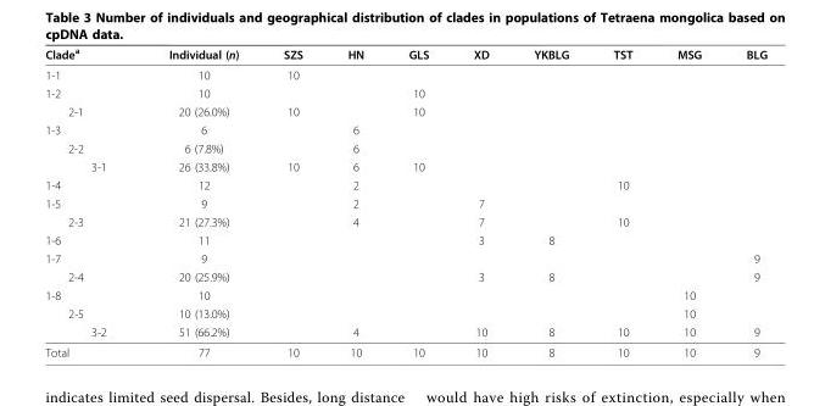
<table><thead><tr><td>Clade<sup>a</sup></td><td>Individual (n)</td><td>SZS</td><td>HN</td><td>GLS</td><td>XD</td><td>YKBLG</td><td>TST</td><td>MSG</td><td>BLG</td></tr></thead><tbody><tr><td>1-1</td><td>10</td><td>10</td><td></td><td></td><td></td><td></td><td></td><td></td><td></td></tr><tr><td>1-2</td><td>10</td><td></td><td></td><td>10</td><td></td><td></td><td></td><td></td><td></td></tr><tr><td>2-1</td><td>20 (26.0%)</td><td>10</td><td></td><td>10</td><td></td><td></td><td></td><td></td><td></td></tr><tr><td>1-3</td><td>6</td><td></td><td>6</td><td></td><td></td><td></td><td></td><td></td><td></td></tr><tr><td>2-2</td><td>6 (7.8%)</td><td></td><td>6</td><td></td><td></td><td></td><td></td><td></td><td></td></tr><tr><td>3-1</td><td>26 (33.8%)</td><td>10</td><td>6</td><td>10</td><td></td><td></td><td></td><td></td><td></td></tr><tr><td>1-4</td><td>12</td><td></td><td>2</td><td></td><td></td><td></td><td>10</td><td></td><td></td></tr><tr><td>1-5</td><td>9</td><td></td><td>2</td><td></td><td>7</td><td></td><td></td><td></td><td></td></tr><tr><td>2-3</td><td>21 (27.3%)</td><td></td><td>4</td><td></td><td>7</td><td></td><td>10</td><td></td><td></td></tr><tr><td>1-6</td><td>11</td><td></td><td></td><td></td><td>3</td><td>8</td><td></td><td></td><td></td></tr><tr><td>1-7</td><td>9</td><td></td><td></td><td></td><td></td><td></td><td></td><td></td><td>9</td></tr><tr><td>2-4</td><td>20 (25.9%)</td><td></td><td></td><td></td><td>3</td><td>8</td><td></td><td></td><td>9</td></tr><tr><td>1-8</td><td>10</td><td></td><td></td><td></td><td></td><td></td><td></td><td>10</td><td></td></tr><tr><td>2-5</td><td>10 (13.0%)</td><td></td><td></td><td></td><td></td><td></td><td></td><td>10</td><td></td></tr><tr><td>3-2</td><td>51 (66.2%)</td><td></td><td>4</td><td></td><td>10</td><td>8</td><td>10</td><td>10</td><td>9</td></tr><tr><td>Total</td><td>77</td><td>10</td><td>10</td><td>10</td><td>10</td><td>8</td><td>10</td><td>10</td><td>9</td></tr></tbody></table>